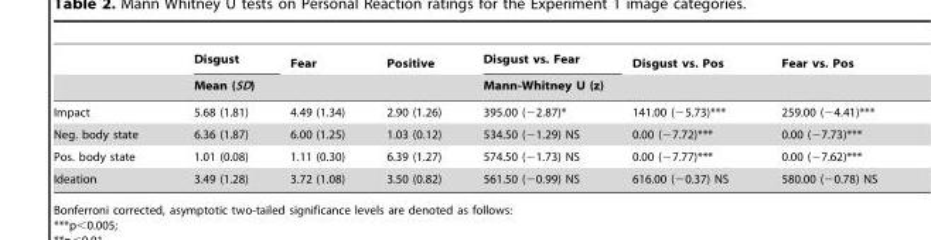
<table><thead><tr><td rowspan="2"></td><td>Disgust</td><td>Fear</td><td>Positive</td><td>Disgust vs. Fear</td><td>Disgust vs. Pos</td><td>Fear vs. Pos</td></tr><tr><td colspan="3">Mean (SD)</td><td colspan="3">Mann-Whitney U (z)</td></tr></thead><tbody><tr><td>Impact</td><td>5.68 (1.81)</td><td>4.49 (1.34)</td><td>2.90 (1.26)</td><td>395.00 (−2.87)*</td><td>141.00 (−5.73)***</td><td>259.00 (−4.41)***</td></tr><tr><td>Neg. body state</td><td>6.36 (1.87)</td><td>6.00 (1.25)</td><td>1.03 (0.12)</td><td>534.50 (−1.29) NS</td><td>0.00 (−7.72)***</td><td>0.00 (−7.73)***</td></tr><tr><td>Pos. body state</td><td>1.01 (0.08)</td><td>1.11 (0.30)</td><td>6.39 (1.27)</td><td>574.50 (−1.73) NS</td><td>0.00 (−7.77)***</td><td>0.00 (−7.62)***</td></tr><tr><td>Ideation</td><td>3.49 (1.28)</td><td>3.72 (1.08)</td><td>3.50 (0.82)</td><td>561.50 (−0.99) NS</td><td>616.00 (−0.37) NS</td><td>580.00 (−0.78) NS</td></tr></tbody></table>